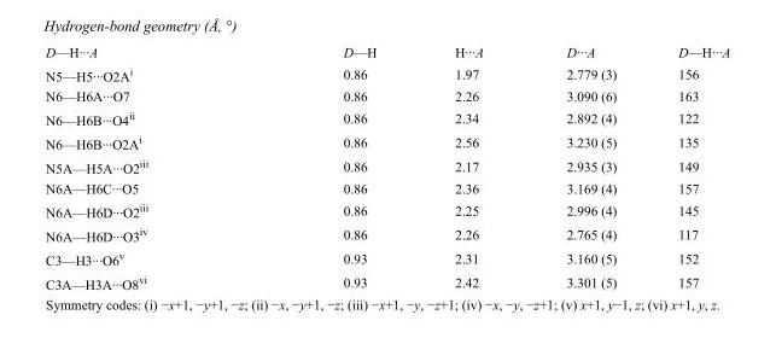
<table><tbody><tr><td>D—H···A</td><td>D—H</td><td>H···A</td><td>D···A</td><td>D—H···A</td></tr><tr><td>N5—H5···O2A<sup>i</sup></td><td>0.86</td><td>1.97</td><td>2.779 (3)</td><td>156</td></tr><tr><td>N6—H6A···O7</td><td>0.86</td><td>2.26</td><td>3.090 (6)</td><td>163</td></tr><tr><td>N6—H6B···O4<sup>ii</sup></td><td>0.86</td><td>2.34</td><td>2.892 (4)</td><td>122</td></tr><tr><td>N6—H6B···O2A<sup>i</sup></td><td>0.86</td><td>2.56</td><td>3.230 (5)</td><td>135</td></tr><tr><td>N5A—H5A···O2<sup>iii</sup></td><td>0.86</td><td>2.17</td><td>2.935 (3)</td><td>149</td></tr><tr><td>N6A—H6C···O5</td><td>0.86</td><td>2.36</td><td>3.169 (4)</td><td>157</td></tr><tr><td>N6A—H6D···O2<sup>iii</sup></td><td>0.86</td><td>2.25</td><td>2.996 (4)</td><td>145</td></tr><tr><td>N6A—H6D···O3<sup>iv</sup></td><td>0.86</td><td>2.26</td><td>2.765 (4)</td><td>117</td></tr><tr><td>C3—H3···O6<sup>v</sup></td><td>0.93</td><td>2.31</td><td>3.160 (5)</td><td>152</td></tr><tr><td>C3A—H3A···O8<sup>vi</sup></td><td>0.93</td><td>2.42</td><td>3.301 (5)</td><td>157</td></tr></tbody></table>